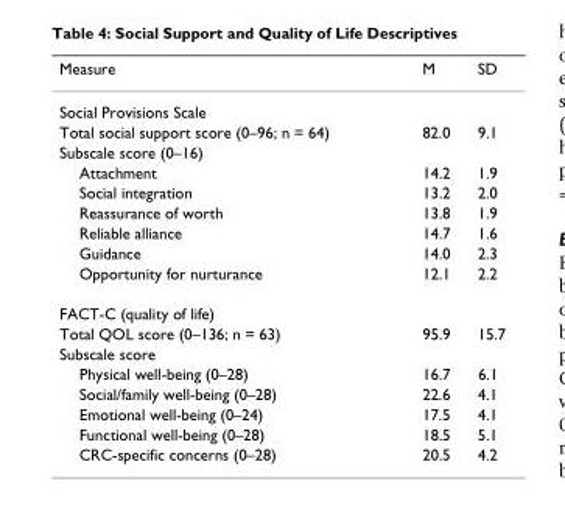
<table><thead><tr><td>Measure</td><td>M</td><td>SD</td></tr></thead><tbody><tr><td colspan="3">Social Provisions Scale</td></tr><tr><td>Total social support score (0–96; n = 64)</td><td>82.0</td><td>9.1</td></tr><tr><td colspan="3">Subscale score (0–16)</td></tr><tr><td>Attachment</td><td>14.2</td><td>1.9</td></tr><tr><td>Social integration</td><td>13.2</td><td>2.0</td></tr><tr><td>Reassurance of worth</td><td>13.8</td><td>1.9</td></tr><tr><td>Reliable alliance</td><td>14.7</td><td>1.6</td></tr><tr><td>Guidance</td><td>14.0</td><td>2.3</td></tr><tr><td>Opportunity for nurturance</td><td>12.1</td><td>2.2</td></tr><tr><td colspan="3">FACT-C (quality of life)</td></tr><tr><td>Total QOL score (0–136; n = 63)</td><td>95.9</td><td>15.7</td></tr><tr><td colspan="3">Subscale score</td></tr><tr><td>Physical well-being (0–28)</td><td>16.7</td><td>6.1</td></tr><tr><td>Social/family well-being (0–28)</td><td>22.6</td><td>4.1</td></tr><tr><td>Emotional well-being (0–24)</td><td>17.5</td><td>4.1</td></tr><tr><td>Functional well-being (0–28)</td><td>18.5</td><td>5.1</td></tr><tr><td>CRC-specific concerns (0–28)</td><td>20.5</td><td>4.2</td></tr></tbody></table>